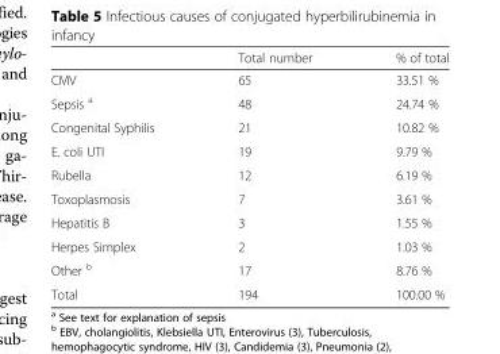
<table><thead><tr><td></td><td>Total number</td><td>% of total</td></tr></thead><tbody><tr><td>CMV</td><td>65</td><td>33.51 %</td></tr><tr><td>Sepsis <sup>a</sup></td><td>48</td><td>24.74 %</td></tr><tr><td>Congenital Syphilis</td><td>21</td><td>10.82 %</td></tr><tr><td>E. coli UTI</td><td>19</td><td>9.79 %</td></tr><tr><td>Rubella</td><td>12</td><td>6.19 %</td></tr><tr><td>Toxoplasmosis</td><td>7</td><td>3.61 %</td></tr><tr><td>Hepatitis B</td><td>3</td><td>1.55 %</td></tr><tr><td>Herpes Simplex</td><td>2</td><td>1.03 %</td></tr><tr><td>Other <sup>b</sup></td><td>17</td><td>8.76 %</td></tr><tr><td>Total</td><td>194</td><td>100.00 %</td></tr></tbody></table>